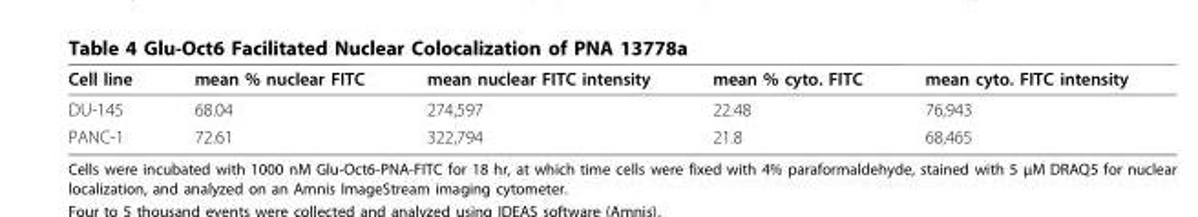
<table><thead><tr><td>Cell line</td><td>mean % nuclear FITC</td><td>mean nuclear FITC intensity</td><td>mean % cyto. FITC</td><td>mean cyto. FITC intensity</td></tr></thead><tbody><tr><td>DU-145</td><td>68.04</td><td>274,597</td><td>22.48</td><td>76,943</td></tr><tr><td>PANC-1</td><td>72.61</td><td>322,794</td><td>21.8</td><td>68,465</td></tr></tbody></table>